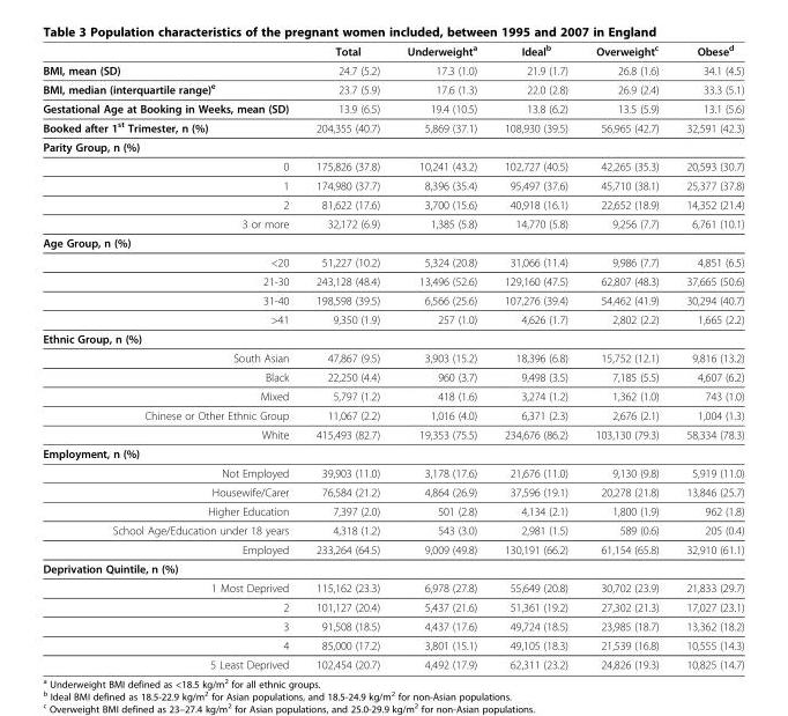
<table><thead><tr><td></td><td>Total</td><td>Underweight<sup>a</sup></td><td>Ideal<sup>b</sup></td><td>Overweight<sup>c</sup></td><td>Obese<sup>d</sup></td></tr></thead><tbody><tr><td>BMI, mean (SD)</td><td>24.7 (5.2)</td><td>17.3 (1.0)</td><td>21.9 (1.7)</td><td>26.8 (1.6)</td><td>34.1 (4.5)</td></tr><tr><td>BMI, median (interquartile range)<sup>e</sup></td><td>23.7 (5.9)</td><td>17.6 (1.3)</td><td>22.0 (2.8)</td><td>26.9 (2.4)</td><td>33.3 (5.1)</td></tr><tr><td>Gestational Age at Booking in Weeks, mean (SD)</td><td>13.9 (6.5)</td><td>19.4 (10.5)</td><td>13.8 (6.2)</td><td>13.5 (5.9)</td><td>13.1 (5.6)</td></tr><tr><td>Booked after 1<sup>st</sup> Trimester, n (%)</td><td>204,355 (40.7)</td><td>5,869 (37.1)</td><td>108,930 (39.5)</td><td>56,965 (42.7)</td><td>32,591 (42.3)</td></tr><tr><td colspan="6">Parity Group, n (%)</td></tr><tr><td>0</td><td>175,826 (37.8)</td><td>10,241 (43.2)</td><td>102,727 (40.5)</td><td>42,265 (35.3)</td><td>20,593 (30.7)</td></tr><tr><td>1</td><td>174,980 (37.7)</td><td>8,396 (35.4)</td><td>95,497 (37.6)</td><td>45,710 (38.1)</td><td>25,377 (37.8)</td></tr><tr><td>2</td><td>81,622 (17.6)</td><td>3,700 (15.6)</td><td>40,918 (16.1)</td><td>22,652 (18.9)</td><td>14,352 (21.4)</td></tr><tr><td>3 or more</td><td>32,172 (6.9)</td><td>1,385 (5.8)</td><td>14,770 (5.8)</td><td>9,256 (7.7)</td><td>6,761 (10.1)</td></tr><tr><td colspan="6">Age Group, n (%)</td></tr><tr><td>&lt;20</td><td>51,227 (10.2)</td><td>5,324 (20.8)</td><td>31,066 (11.4)</td><td>9,986 (7.7)</td><td>4,851 (6.5)</td></tr><tr><td>21-30</td><td>243,128 (48.4)</td><td>13,496 (52.6)</td><td>129,160 (47.5)</td><td>62,807 (48.3)</td><td>37,665 (50.6)</td></tr><tr><td>31-40</td><td>198,598 (39.5)</td><td>6,566 (25.6)</td><td>107,276 (39.4)</td><td>54,462 (41.9)</td><td>30,294 (40.7)</td></tr><tr><td>&gt;41</td><td>9,350 (1.9)</td><td>257 (1.0)</td><td>4,626 (1.7)</td><td>2,802 (2.2)</td><td>1,665 (2.2)</td></tr><tr><td colspan="6">Ethnic Group, n (%)</td></tr><tr><td>South Asian</td><td>47,867 (9.5)</td><td>3,903 (15.2)</td><td>18,396 (6.8)</td><td>15,752 (12.1)</td><td>9,816 (13.2)</td></tr><tr><td>Black</td><td>22,250 (4.4)</td><td>960 (3.7)</td><td>9,498 (3.5)</td><td>7,185 (5.5)</td><td>4,607 (6.2)</td></tr><tr><td>Mixed</td><td>5,797 (1.2)</td><td>418 (1.6)</td><td>3,274 (1.2)</td><td>1,362 (1.0)</td><td>743 (1.0)</td></tr><tr><td>Chinese or Other Ethnic Group</td><td>11,067 (2.2)</td><td>1,016 (4.0)</td><td>6,371 (2.3)</td><td>2,676 (2.1)</td><td>1,004 (1.3)</td></tr><tr><td>White</td><td>415,493 (82.7)</td><td>19,353 (75.5)</td><td>234,676 (86.2)</td><td>103,130 (79.3)</td><td>58,334 (78.3)</td></tr><tr><td colspan="6">Employment, n (%)</td></tr><tr><td>Not Employed</td><td>39,903 (11.0)</td><td>3,178 (17.6)</td><td>21,676 (11.0)</td><td>9,130 (9.8)</td><td>5,919 (11.0)</td></tr><tr><td>Housewife/Carer</td><td>76,584 (21.2)</td><td>4,864 (26.9)</td><td>37,596 (19.1)</td><td>20,278 (21.8)</td><td>13,846 (25.7)</td></tr><tr><td>Higher Education</td><td>7,397 (2.0)</td><td>501 (2.8)</td><td>4,134 (2.1)</td><td>1,800 (1.9)</td><td>962 (1.8)</td></tr><tr><td>School Age/Education under 18 years</td><td>4,318 (1.2)</td><td>543 (3.0)</td><td>2,981 (1.5)</td><td>589 (0.6)</td><td>205 (0.4)</td></tr><tr><td>Employed</td><td>233,264 (64.5)</td><td>9,009 (49.8)</td><td>130,191 (66.2)</td><td>61,154 (65.8)</td><td>32,910 (61.1)</td></tr><tr><td colspan="6">Deprivation Quintile, n (%)</td></tr><tr><td>1 Most Deprived</td><td>115,162 (23.3)</td><td>6,978 (27.8)</td><td>55,649 (20.8)</td><td>30,702 (23.9)</td><td>21,833 (29.7)</td></tr><tr><td>2</td><td>101,127 (20.4)</td><td>5,437 (21.6)</td><td>51,361 (19.2)</td><td>27,302 (21.3)</td><td>17,027 (23.1)</td></tr><tr><td>3</td><td>91,508 (18.5)</td><td>4,437 (17.6)</td><td>49,724 (18.5)</td><td>23,985 (18.7)</td><td>13,362 (18.2)</td></tr><tr><td>4</td><td>85,000 (17.2)</td><td>3,801 (15.1)</td><td>49,105 (18.3)</td><td>21,539 (16.8)</td><td>10,555 (14.3)</td></tr><tr><td>5 Least Deprived</td><td>102,454 (20.7)</td><td>4,492 (17.9)</td><td>62,311 (23.2)</td><td>24,826 (19.3)</td><td>10,825 (14.7)</td></tr></tbody></table>